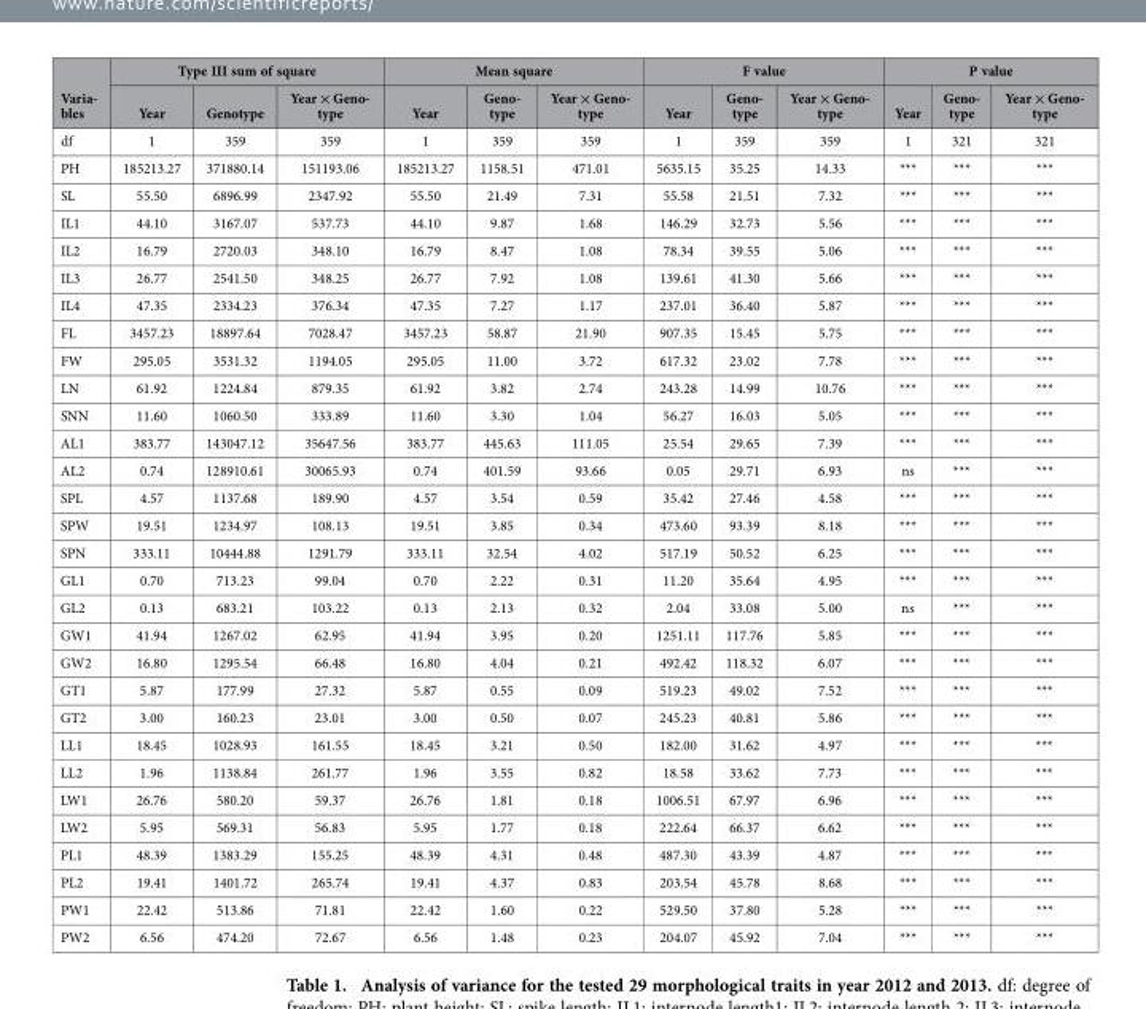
<table><thead><tr><td rowspan="2">Varia- bles</td><td colspan="3">Type III sum of square</td><td colspan="3">Mean square</td><td colspan="3">F value</td><td colspan="3">P value</td></tr><tr><td>Year</td><td>Genotype</td><td>Year × Geno- type</td><td>Year</td><td>Geno- type</td><td>Year × Geno- type</td><td>Year</td><td>Geno- type</td><td>Year × Geno- type</td><td>Year</td><td>Geno- type</td><td>Year × Geno- type</td></tr></thead><tbody><tr><td>df</td><td>1</td><td>359</td><td>359</td><td>1</td><td>359</td><td>359</td><td>1</td><td>359</td><td>359</td><td>1</td><td>321</td><td>321</td></tr><tr><td>PH</td><td>185213.27</td><td>371880.14</td><td>151193.06</td><td>185213.27</td><td>1158.51</td><td>471.01</td><td>5635.15</td><td>35.25</td><td>14.33</td><td>***</td><td>***</td><td>***</td></tr><tr><td>SL</td><td>55.50</td><td>6896.99</td><td>2347.92</td><td>55.50</td><td>21.49</td><td>7.31</td><td>55.58</td><td>21.51</td><td>7.32</td><td>***</td><td>***</td><td>***</td></tr><tr><td>IL1</td><td>44.10</td><td>3167.07</td><td>537.73</td><td>44.10</td><td>9.87</td><td>1.68</td><td>146.29</td><td>32.73</td><td>5.56</td><td>***</td><td>***</td><td>***</td></tr><tr><td>IL2</td><td>16.79</td><td>2720.03</td><td>348.10</td><td>16.79</td><td>8.47</td><td>1.08</td><td>78.34</td><td>39.55</td><td>5.06</td><td>***</td><td>***</td><td>***</td></tr><tr><td>IL3</td><td>26.77</td><td>2541.50</td><td>348.25</td><td>26.77</td><td>7.92</td><td>1.08</td><td>139.61</td><td>41.30</td><td>5.66</td><td>***</td><td>***</td><td>***</td></tr><tr><td>IL4</td><td>47.35</td><td>2334.23</td><td>376.34</td><td>47.35</td><td>7.27</td><td>1.17</td><td>237.01</td><td>36.40</td><td>5.87</td><td>***</td><td>***</td><td>***</td></tr><tr><td>FL</td><td>3457.23</td><td>18897.64</td><td>7028.47</td><td>3457.23</td><td>58.87</td><td>21.90</td><td>907.35</td><td>15.45</td><td>5.75</td><td>***</td><td>***</td><td>***</td></tr><tr><td>FW</td><td>295.05</td><td>3531.32</td><td>1194.05</td><td>295.05</td><td>11.00</td><td>3.72</td><td>617.32</td><td>23.02</td><td>7.78</td><td>***</td><td>***</td><td>***</td></tr><tr><td>LN</td><td>61.92</td><td>1224.84</td><td>879.35</td><td>61.92</td><td>3.82</td><td>2.74</td><td>243.28</td><td>14.99</td><td>10.76</td><td>***</td><td>***</td><td>***</td></tr><tr><td>SNN</td><td>11.60</td><td>1060.50</td><td>333.89</td><td>11.60</td><td>3.30</td><td>1.04</td><td>56.27</td><td>16.03</td><td>5.05</td><td>***</td><td>***</td><td>***</td></tr><tr><td>AL1</td><td>383.77</td><td>143047.12</td><td>35647.56</td><td>383.77</td><td>445.63</td><td>111.05</td><td>25.54</td><td>29.65</td><td>7.39</td><td>***</td><td>***</td><td>***</td></tr><tr><td>AL2</td><td>0.74</td><td>128910.61</td><td>30065.93</td><td>0.74</td><td>401.59</td><td>93.66</td><td>0.05</td><td>29.71</td><td>6.93</td><td>ns</td><td>***</td><td>***</td></tr><tr><td>SPL</td><td>4.57</td><td>1137.68</td><td>189.90</td><td>4.57</td><td>3.54</td><td>0.59</td><td>35.42</td><td>27.46</td><td>4.58</td><td>***</td><td>***</td><td>***</td></tr><tr><td>SPW</td><td>19.51</td><td>1234.97</td><td>108.13</td><td>19.51</td><td>3.85</td><td>0.34</td><td>473.60</td><td>93.39</td><td>8.18</td><td>***</td><td>***</td><td>***</td></tr><tr><td>SPN</td><td>333.11</td><td>10444.88</td><td>1291.79</td><td>333.11</td><td>32.54</td><td>4.02</td><td>517.19</td><td>50.52</td><td>6.25</td><td>***</td><td>***</td><td>***</td></tr><tr><td>GL1</td><td>0.70</td><td>713.23</td><td>99.04</td><td>0.70</td><td>2.22</td><td>0.31</td><td>11.20</td><td>35.64</td><td>4.95</td><td>***</td><td>***</td><td>***</td></tr><tr><td>GL2</td><td>0.13</td><td>683.21</td><td>103.22</td><td>0.13</td><td>2.13</td><td>0.32</td><td>2.04</td><td>33.08</td><td>5.00</td><td>ns</td><td>***</td><td>***</td></tr><tr><td>GW1</td><td>41.94</td><td>1267.02</td><td>62.95</td><td>41.94</td><td>3.95</td><td>0.20</td><td>1251.11</td><td>117.76</td><td>5.85</td><td>***</td><td>***</td><td>***</td></tr><tr><td>GW2</td><td>16.80</td><td>1295.54</td><td>66.48</td><td>16.80</td><td>4.04</td><td>0.21</td><td>492.42</td><td>118.32</td><td>6.07</td><td>***</td><td>***</td><td>***</td></tr><tr><td>GT1</td><td>5.87</td><td>177.99</td><td>27.32</td><td>5.87</td><td>0.55</td><td>0.09</td><td>519.23</td><td>49.02</td><td>7.52</td><td>***</td><td>***</td><td>***</td></tr><tr><td>GT2</td><td>3.00</td><td>160.23</td><td>23.01</td><td>3.00</td><td>0.50</td><td>0.07</td><td>245.23</td><td>40.81</td><td>5.86</td><td>***</td><td>***</td><td>***</td></tr><tr><td>LL1</td><td>18.45</td><td>1028.93</td><td>161.55</td><td>18.45</td><td>3.21</td><td>0.50</td><td>182.00</td><td>31.62</td><td>4.97</td><td>***</td><td>***</td><td>***</td></tr><tr><td>LL2</td><td>1.96</td><td>1138.84</td><td>261.77</td><td>1.96</td><td>3.55</td><td>0.82</td><td>18.58</td><td>33.62</td><td>7.73</td><td>***</td><td>***</td><td>***</td></tr><tr><td>LW1</td><td>26.76</td><td>580.20</td><td>59.37</td><td>26.76</td><td>1.81</td><td>0.18</td><td>1006.51</td><td>67.97</td><td>6.96</td><td>***</td><td>***</td><td>***</td></tr><tr><td>LW2</td><td>5.95</td><td>569.31</td><td>56.83</td><td>5.95</td><td>1.77</td><td>0.18</td><td>222.64</td><td>66.37</td><td>6.62</td><td>***</td><td>***</td><td>***</td></tr><tr><td>PL1</td><td>48.39</td><td>1383.29</td><td>155.25</td><td>48.39</td><td>4.31</td><td>0.48</td><td>487.30</td><td>43.39</td><td>4.87</td><td>***</td><td>***</td><td>***</td></tr><tr><td>PL2</td><td>19.41</td><td>1401.72</td><td>265.74</td><td>19.41</td><td>4.37</td><td>0.83</td><td>203.54</td><td>45.78</td><td>8.68</td><td>***</td><td>***</td><td>***</td></tr><tr><td>PW1</td><td>22.42</td><td>513.86</td><td>71.81</td><td>22.42</td><td>1.60</td><td>0.22</td><td>529.50</td><td>37.80</td><td>5.28</td><td>***</td><td>***</td><td>***</td></tr><tr><td>PW2</td><td>6.56</td><td>474.20</td><td>72.67</td><td>6.56</td><td>1.48</td><td>0.23</td><td>204.07</td><td>45.92</td><td>7.04</td><td>***</td><td>***</td><td>***</td></tr></tbody></table>